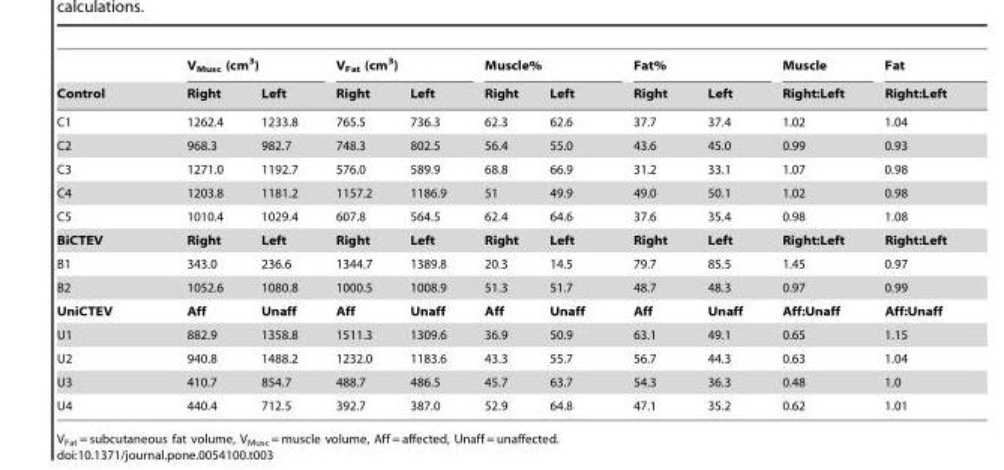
<table><thead><tr><td rowspan="2">Control</td><td colspan="2">V<sub>Musc</sub> (cm<sup>3</sup>)</td><td colspan="2">V<sub>Fat</sub> (cm<sup>3</sup>)</td><td colspan="2">Muscle%</td><td colspan="2">Fat%</td><td rowspan="2">Muscle Right:Left</td><td rowspan="2">Fat Right:Left</td></tr><tr><td>Right</td><td>Left</td><td>Right</td><td>Left</td><td>Right</td><td>Left</td><td>Right</td><td>Left</td></tr></thead><tbody><tr><td>C1</td><td>1262.4</td><td>1233.8</td><td>765.5</td><td>736.3</td><td>62.3</td><td>62.6</td><td>37.7</td><td>37.4</td><td>1.02</td><td>1.04</td></tr><tr><td>C2</td><td>968.3</td><td>982.7</td><td>748.3</td><td>802.5</td><td>56.4</td><td>55.0</td><td>43.6</td><td>45.0</td><td>0.99</td><td>0.93</td></tr><tr><td>C3</td><td>1271.0</td><td>1192.7</td><td>576.0</td><td>589.9</td><td>68.8</td><td>66.9</td><td>31.2</td><td>33.1</td><td>1.07</td><td>0.98</td></tr><tr><td>C4</td><td>1203.8</td><td>1181.2</td><td>1157.2</td><td>1186.9</td><td>51</td><td>49.9</td><td>49.0</td><td>50.1</td><td>1.02</td><td>0.98</td></tr><tr><td>C5</td><td>1010.4</td><td>1029.4</td><td>607.8</td><td>564.5</td><td>62.4</td><td>64.6</td><td>37.6</td><td>35.4</td><td>0.98</td><td>1.08</td></tr><tr><td>BiCTEV</td><td>Right</td><td>Left</td><td>Right</td><td>Left</td><td>Right</td><td>Left</td><td>Right</td><td>Left</td><td>Right:Left</td><td>Right:Left</td></tr><tr><td>B1</td><td>343.0</td><td>236.6</td><td>1344.7</td><td>1389.8</td><td>20.3</td><td>14.5</td><td>79.7</td><td>85.5</td><td>1.45</td><td>0.97</td></tr><tr><td>B2</td><td>1052.6</td><td>1080.8</td><td>1000.5</td><td>1008.9</td><td>51.3</td><td>51.7</td><td>48.7</td><td>48.3</td><td>0.97</td><td>0.99</td></tr><tr><td>UniCTEV</td><td>Aff</td><td>Unaff</td><td>Aff</td><td>Unaff</td><td>Aff</td><td>Unaff</td><td>Aff</td><td>Unaff</td><td>Aff:Unaff</td><td>Aff:Unaff</td></tr><tr><td>U1</td><td>882.9</td><td>1358.8</td><td>1511.3</td><td>1309.6</td><td>36.9</td><td>50.9</td><td>63.1</td><td>49.1</td><td>0.65</td><td>1.15</td></tr><tr><td>U2</td><td>940.8</td><td>1488.2</td><td>1232.0</td><td>1183.6</td><td>43.3</td><td>55.7</td><td>56.7</td><td>44.3</td><td>0.63</td><td>1.04</td></tr><tr><td>U3</td><td>410.7</td><td>854.7</td><td>488.7</td><td>486.5</td><td>45.7</td><td>63.7</td><td>54.3</td><td>36.3</td><td>0.48</td><td>1.0</td></tr><tr><td>U4</td><td>440.4</td><td>712.5</td><td>392.7</td><td>387.0</td><td>52.9</td><td>64.8</td><td>47.1</td><td>35.2</td><td>0.62</td><td>1.01</td></tr></tbody></table>